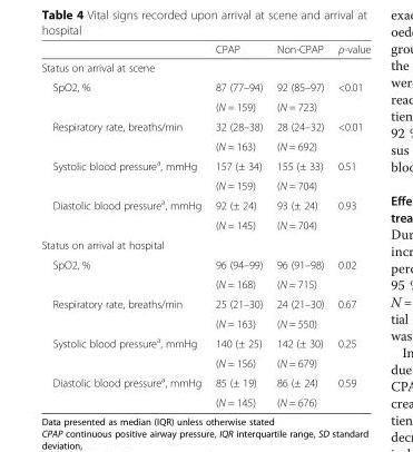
<table><thead><tr><td></td><td>CPAP</td><td>Non-CPAP</td><td>ρ-value</td></tr></thead><tbody><tr><td colspan="4">Status on arrival at scene</td></tr><tr><td rowspan="2">SpO2, %</td><td>87 (77–94)</td><td>92 (85–97)</td><td>&lt;0.01</td></tr><tr><td>(N = 159)</td><td>(N = 723)</td><td></td></tr><tr><td rowspan="2">Respiratory rate, breaths/min</td><td>32 (28–38)</td><td>28 (24–32)</td><td>&lt;0.01</td></tr><tr><td>(N = 163)</td><td>(N = 692)</td><td></td></tr><tr><td rowspan="2">Systolic blood pressure<sup>a</sup>, mmHg</td><td>157 (± 34)</td><td>155 (± 33)</td><td>0.51</td></tr><tr><td>(N = 159)</td><td>(N = 704)</td><td></td></tr><tr><td rowspan="2">Diastolic blood pressure<sup>a</sup>, mmHg</td><td>92 (± 24)</td><td>93 (± 24)</td><td>0.93</td></tr><tr><td>(N = 145)</td><td>(N = 704)</td><td></td></tr><tr><td colspan="4">Status on arrival at hospital</td></tr><tr><td rowspan="2">SpO2, %</td><td>96 (94–99)</td><td>96 (91–98)</td><td>0.02</td></tr><tr><td>(N = 168)</td><td>(N = 715)</td><td></td></tr><tr><td rowspan="2">Respiratory rate, breaths/min</td><td>25 (21–30)</td><td>24 (21–30)</td><td>0.67</td></tr><tr><td>(N = 163)</td><td>(N = 550)</td><td></td></tr><tr><td rowspan="2">Systolic blood pressure<sup>a</sup>, mmHg</td><td>140 (± 25)</td><td>142 (± 30)</td><td>0.25</td></tr><tr><td>(N = 156)</td><td>(N = 679)</td><td></td></tr><tr><td rowspan="2">Diastolic blood pressure<sup>a</sup>, mmHg</td><td>85 (± 19)</td><td>86 (± 24)</td><td>0.59</td></tr><tr><td>(N = 145)</td><td>(N = 676)</td><td></td></tr></tbody></table>